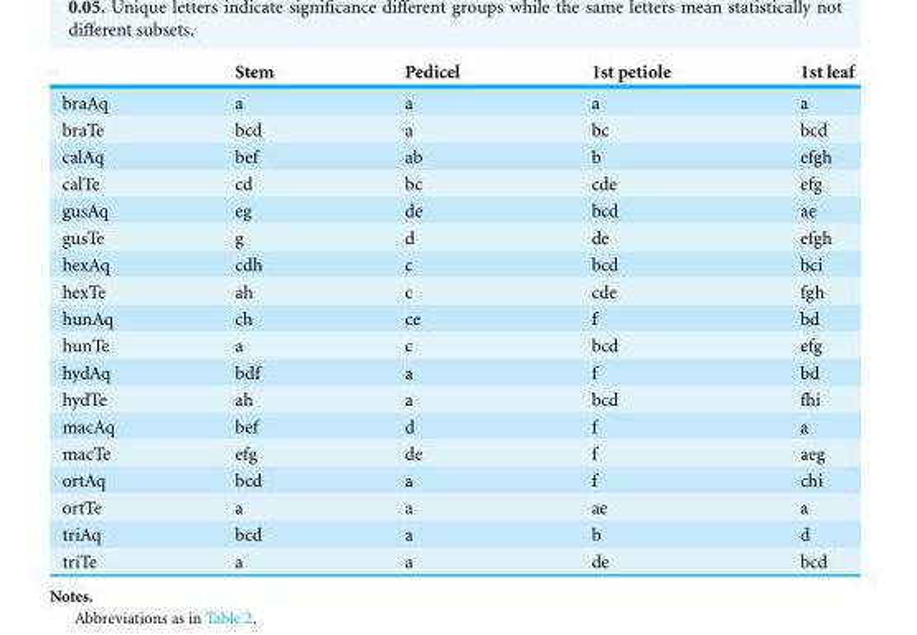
<table><thead><tr><td></td><td>Stem</td><td>Pedicel</td><td>1st petiole</td><td>1st leaf</td></tr></thead><tbody><tr><td>braAq</td><td>a</td><td>a</td><td>a</td><td>a</td></tr><tr><td>braTe</td><td>bcd</td><td>a</td><td>bc</td><td>bcd</td></tr><tr><td>calAq</td><td>bef</td><td>ab</td><td>b</td><td>efgh</td></tr><tr><td>calTe</td><td>cd</td><td>bc</td><td>cde</td><td>efg</td></tr><tr><td>gusAq</td><td>eg</td><td>de</td><td>bcd</td><td>ae</td></tr><tr><td>gusTe</td><td>g</td><td>d</td><td>de</td><td>efgh</td></tr><tr><td>hexAq</td><td>cdh</td><td>c</td><td>bcd</td><td>bci</td></tr><tr><td>hexTe</td><td>ah</td><td>c</td><td>cde</td><td>fgh</td></tr><tr><td>hunAq</td><td>ch</td><td>ce</td><td>f</td><td>bd</td></tr><tr><td>hunTe</td><td>a</td><td>c</td><td>bcd</td><td>efg</td></tr><tr><td>hydAq</td><td>bdf</td><td>a</td><td>f</td><td>bd</td></tr><tr><td>hydTe</td><td>ah</td><td>a</td><td>bcd</td><td>fhi</td></tr><tr><td>macAq</td><td>bef</td><td>d</td><td>f</td><td>a</td></tr><tr><td>macTe</td><td>efg</td><td>de</td><td>f</td><td>aeg</td></tr><tr><td>ortAq</td><td>bcd</td><td>a</td><td>f</td><td>chi</td></tr><tr><td>ortTe</td><td>a</td><td>a</td><td>ae</td><td>a</td></tr><tr><td>triAq</td><td>bcd</td><td>a</td><td>b</td><td>d</td></tr><tr><td>triTe</td><td>a</td><td>a</td><td>de</td><td>bcd</td></tr></tbody></table>